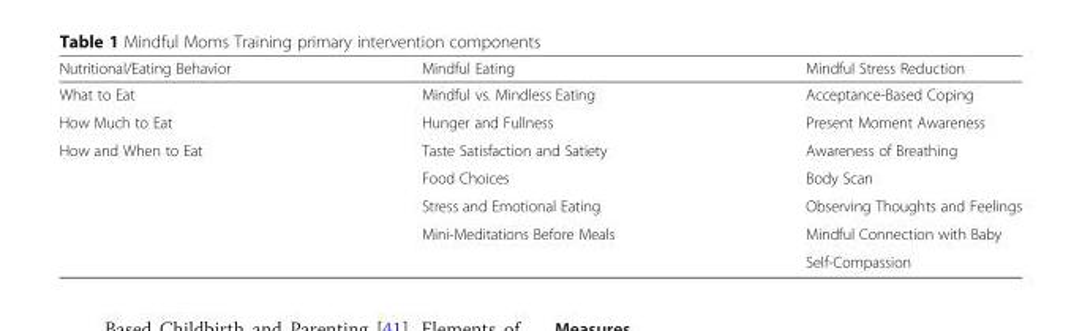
<table><thead><tr><td>Nutritional/Eating Behavior</td><td>Mindful Eating</td><td>Mindful Stress Reduction</td></tr></thead><tbody><tr><td>What to Eat</td><td>Mindful vs. Mindless Eating</td><td>Acceptance-Based Coping</td></tr><tr><td>How Much to Eat</td><td>Hunger and Fullness</td><td>Present Moment Awareness</td></tr><tr><td rowspan="5">How and When to Eat</td><td>Taste Satisfaction and Satiety</td><td>Awareness of Breathing</td></tr><tr><td>Food Choices</td><td>Body Scan</td></tr><tr><td>Stress and Emotional Eating</td><td>Observing Thoughts and Feelings</td></tr><tr><td>Mini-Meditations Before Meals</td><td>Mindful Connection with Baby</td></tr><tr><td></td><td>Self-Compassion</td></tr></tbody></table>